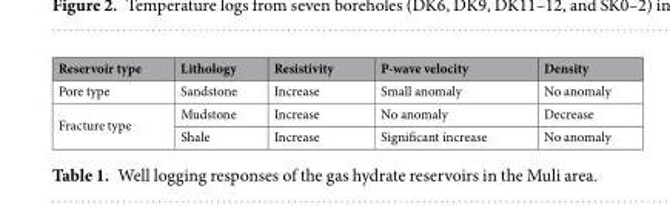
<table><thead><tr><td>Reservoir type</td><td>Lithology</td><td>Resistivity</td><td>P-wave velocity</td><td>Density</td></tr></thead><tbody><tr><td>Pore type</td><td>Sandstone</td><td>Increase</td><td>Small anomaly</td><td>No anomaly</td></tr><tr><td rowspan="2">Fracture type</td><td>Mudstone</td><td>Increase</td><td>No anomaly</td><td>Decrease</td></tr><tr><td>Shale</td><td>Increase</td><td>Significant increase</td><td>No anomaly</td></tr></tbody></table>